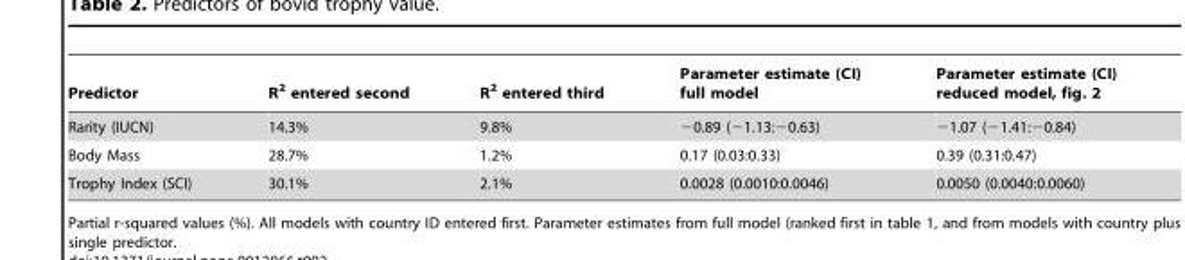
<table><thead><tr><td>Predictor</td><td>R<sup>2</sup> entered second</td><td>R<sup>2</sup> entered third</td><td>Parameter estimate (CI) full model</td><td>Parameter estimate (CI) reduced model, fig. 2</td></tr></thead><tbody><tr><td>Rarity (IUCN)</td><td>14.3%</td><td>9.8%</td><td>−0.89 (−1.13:−0.63)</td><td>−1.07 (−1.41:−0.84)</td></tr><tr><td>Body Mass</td><td>28.7%</td><td>1.2%</td><td>0.17 (0.03:0.33)</td><td>0.39 (0.31:0.47)</td></tr><tr><td>Trophy Index (SCI)</td><td>30.1%</td><td>2.1%</td><td>0.0028 (0.0010:0.0046)</td><td>0.0050 (0.0040:0.0060)</td></tr></tbody></table>